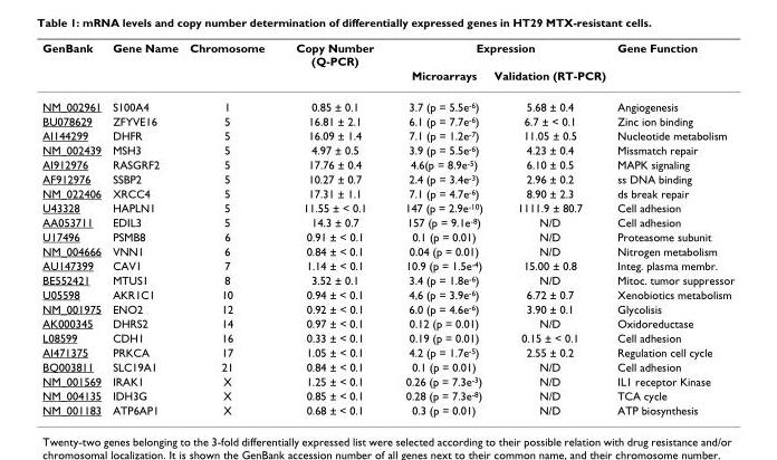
<table><thead><tr><td rowspan="2">GenBank</td><td rowspan="2">Gene Name</td><td rowspan="2">Chromosome</td><td rowspan="2">Copy Number (Q-PCR)</td><td colspan="2">Expression</td><td rowspan="2">Gene Function</td></tr><tr><td>Microarrays</td><td>Validation (RT-PCR)</td></tr></thead><tbody><tr><td>NM_002961</td><td>S100A4</td><td>1</td><td>0.85 ± 0.1</td><td>3.7 (p = 5.5e<sup>-6</sup>)</td><td>5.68 ± 0.4</td><td>Angiogenesis</td></tr><tr><td>BU078629</td><td>ZFYVE16</td><td>5</td><td>16.81 ± 2.1</td><td>6.1 (p = 7.7e<sup>-6</sup>)</td><td>6.7 ± &lt; 0.1</td><td>Zinc ion binding</td></tr><tr><td>AI144299</td><td>DHFR</td><td>5</td><td>16.09 ± 1.4</td><td>7.1 (p = 1.2e<sup>-7</sup>)</td><td>11.05 ± 0.5</td><td>Nucleotide metabolism</td></tr><tr><td>NM_002439</td><td>MSH3</td><td>5</td><td>4.97 ± 0.5</td><td>3.9 (p = 5.5e<sup>-6</sup>)</td><td>4.23 ± 0.4</td><td>Missmatch repair</td></tr><tr><td>AI912976</td><td>RASGRF2</td><td>5</td><td>17.76 ± 0.4</td><td>4.6(p = 8.9e<sup>-5</sup>)</td><td>6.10 ± 0.5</td><td>MAPK signaling</td></tr><tr><td>AF912976</td><td>SSBP2</td><td>5</td><td>10.27 ± 0.7</td><td>2.4 (p = 3.4e<sup>-3</sup>)</td><td>2.96 ± 0.2</td><td>ss DNA binding</td></tr><tr><td>NM_022406</td><td>XRCC4</td><td>5</td><td>17.31 ± 1.1</td><td>7.1 (p = 4.7e<sup>-6</sup>)</td><td>8.90 ± 2.3</td><td>ds break repair</td></tr><tr><td>U43328</td><td>HAPLN1</td><td>5</td><td>11.55 ± &lt; 0.1</td><td>147 (p = 2.9e<sup>-10</sup>)</td><td>1111.9 ± 80.7</td><td>Cell adhesion</td></tr><tr><td>AA053711</td><td>EDIL3</td><td>5</td><td>14.3 ± 0.7</td><td>157 (p = 9.1e<sup>-8</sup>)</td><td>N/D</td><td>Cell adhesion</td></tr><tr><td>U17496</td><td>PSMB8</td><td>6</td><td>0.91 ± &lt; 0.1</td><td>0.1 (p = 0.01)</td><td>N/D</td><td>Proteasome subunit</td></tr><tr><td>NM_004666</td><td>VNN1</td><td>6</td><td>0.84 ± &lt; 0.1</td><td>0.04 (p = 0.01)</td><td>N/D</td><td>Nitrogen metabolism</td></tr><tr><td>AU147399</td><td>CAV1</td><td>7</td><td>1.14 ± &lt; 0.1</td><td>10.9 (p = 1.5e<sup>-4</sup>)</td><td>15.00 ± 0.8</td><td>Integ. plasma membr.</td></tr><tr><td>BE552421</td><td>MTUS1</td><td>8</td><td>3.52 ± 0.1</td><td>3.4 (p = 1.8e<sup>-6</sup>)</td><td>N/D</td><td>Mitoc. tumor suppressor</td></tr><tr><td>U05598</td><td>AKR1C1</td><td>10</td><td>0.94 ± &lt; 0.1</td><td>4,6 (p = 3.9e<sup>-6</sup>)</td><td>6.72 ± 0.7</td><td>Xenobiotics metabolism</td></tr><tr><td>NM_001975</td><td>ENO2</td><td>12</td><td>0.92 ± &lt; 0.1</td><td>6.0 (p = 4.6e<sup>-6</sup>)</td><td>3.90 ± 0.1</td><td>Glycolisis</td></tr><tr><td>AK000345</td><td>DHRS2</td><td>14</td><td>0.97 ± &lt; 0.1</td><td>0.12 (p = 0.01)</td><td>N/D</td><td>Oxidoreductase</td></tr><tr><td>L08599</td><td>CDH1</td><td>16</td><td>0.33 ± &lt; 0.1</td><td>0.19 (p = 0.01)</td><td>0.15 ± &lt; 0.1</td><td>Cell adhesion</td></tr><tr><td>AI471375</td><td>PRKCA</td><td>17</td><td>1.05 ± &lt; 0.1</td><td>4.2 (p = 1.7e<sup>-5</sup>)</td><td>2.55 ± 0.2</td><td>Regulation cell cycle</td></tr><tr><td>BQ003811</td><td>SLC19A1</td><td>21</td><td>0.84 ± &lt; 0.1</td><td>0.1 (p = 0.01)</td><td>N/D</td><td>Cell adhesion</td></tr><tr><td>NM_001569</td><td>IRAK1</td><td>X</td><td>1.25 ± &lt; 0.1</td><td>0.26 (p = 7.3e<sup>-3</sup>)</td><td>N/D</td><td>IL1 receptor Kinase</td></tr><tr><td>NM_004135</td><td>IDH3G</td><td>X</td><td>0.85 ± &lt; 0.1</td><td>0.28 (p = 7.3e<sup>-8</sup>)</td><td>N/D</td><td>TCA cycle</td></tr><tr><td>NM_001183</td><td>ATP6AP1</td><td>X</td><td>0.68 ± &lt; 0.1</td><td>0.3 (p = 0.01)</td><td>N/D</td><td>ATP biosynthesis</td></tr></tbody></table>